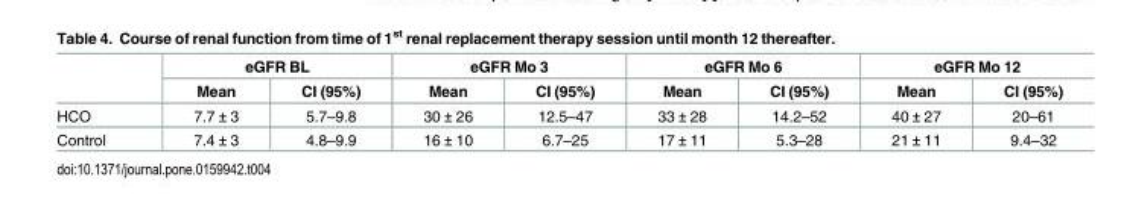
<table><thead><tr><td rowspan="2"></td><td colspan="2">eGFR BL</td><td colspan="2">eGFR Mo 3</td><td colspan="2">eGFR Mo 6</td><td colspan="2">eGFR Mo 12</td></tr><tr><td>Mean</td><td>CI (95%)</td><td>Mean</td><td>CI (95%)</td><td>Mean</td><td>CI (95%)</td><td>Mean</td><td>CI (95%)</td></tr></thead><tbody><tr><td>HCO</td><td>7.7 ± 3</td><td>5.7–9.8</td><td>30 ± 26</td><td>12.5–47</td><td>33 ± 28</td><td>14.2–52</td><td>40 ± 27</td><td>20–61</td></tr><tr><td>Control</td><td>7.4 ± 3</td><td>4.8–9.9</td><td>16 ± 10</td><td>6.7–25</td><td>17 ± 11</td><td>5.3–28</td><td>21 ± 11</td><td>9.4–32</td></tr></tbody></table>